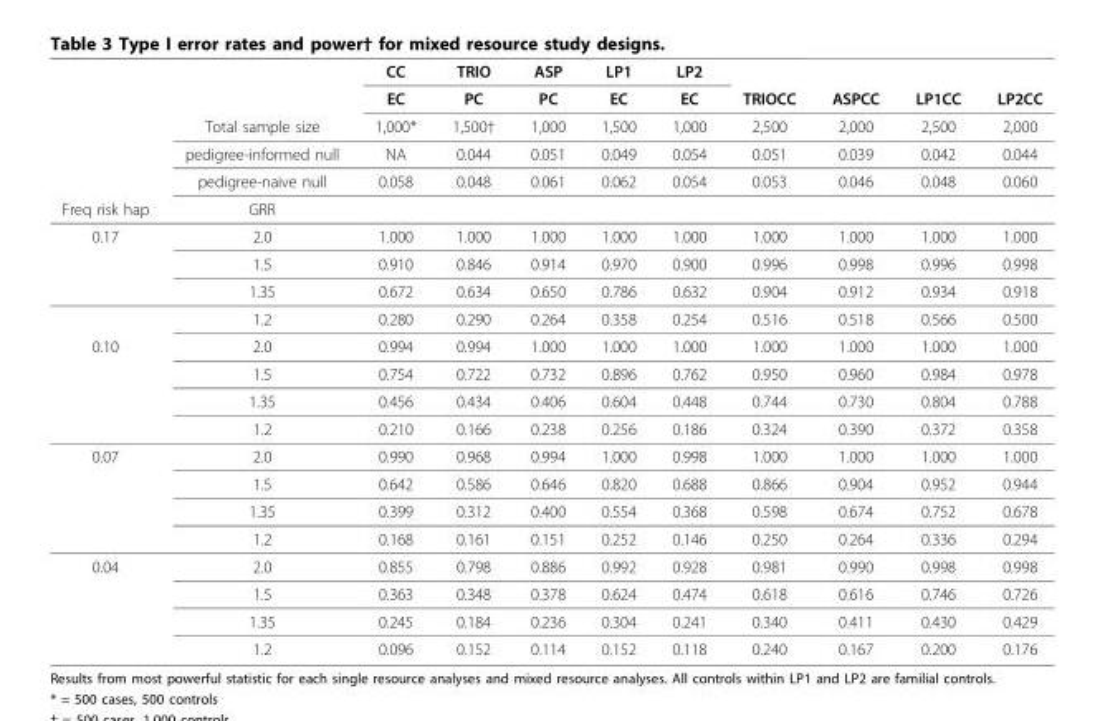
<table><thead><tr><td rowspan="6">Freq risk hap</td><td rowspan="6">Total sample size pedigree-informed null pedigree-naive null GRR</td><td rowspan="6">CC EC 1,000* NA 0.058</td><td rowspan="6">TRIO PC 1,500† 0.044 0.048</td><td rowspan="6">ASP PC 1,000 0.051 0.061</td><td rowspan="6">LP1 EC 1,500 0.049 0.062</td><td rowspan="6">LP2 EC 1,000 0.054 0.054</td><td rowspan="6">TRIOCC 2,500 0.051 0.053</td><td rowspan="6">ASPCC 2,000 0.039 0.046</td><td rowspan="6">LP1CC 2,500 0.042 0.048</td><td rowspan="6">LP2CC 2,000 0.044 0.060</td></tr><tr></tr><tr></tr><tr></tr><tr></tr><tr></tr></thead><tbody><tr><td rowspan="4">0.17</td><td>2.0</td><td>1.000</td><td>1.000</td><td>1.000</td><td>1.000</td><td>1.000</td><td>1.000</td><td>1.000</td><td>1.000</td><td>1.000</td></tr><tr><td>1.5</td><td>0.910</td><td>0.846</td><td>0.914</td><td>0.970</td><td>0.900</td><td>0.996</td><td>0.998</td><td>0.996</td><td>0.998</td></tr><tr><td>1.35</td><td>0.672</td><td>0.634</td><td>0.650</td><td>0.786</td><td>0.632</td><td>0.904</td><td>0.912</td><td>0.934</td><td>0.918</td></tr><tr><td>1.2</td><td>0.280</td><td>0.290</td><td>0.264</td><td>0.358</td><td>0.254</td><td>0.516</td><td>0.518</td><td>0.566</td><td>0.500</td></tr><tr><td rowspan="4">0.10</td><td>2.0</td><td>0.994</td><td>0.994</td><td>1.000</td><td>1.000</td><td>1.000</td><td>1.000</td><td>1.000</td><td>1.000</td><td>1.000</td></tr><tr><td>1.5</td><td>0.754</td><td>0.722</td><td>0.732</td><td>0.896</td><td>0.762</td><td>0.950</td><td>0.960</td><td>0.984</td><td>0.978</td></tr><tr><td>1.35</td><td>0.456</td><td>0.434</td><td>0.406</td><td>0.604</td><td>0.448</td><td>0.744</td><td>0.730</td><td>0.804</td><td>0.788</td></tr><tr><td>1.2</td><td>0.210</td><td>0.166</td><td>0.238</td><td>0.256</td><td>0.186</td><td>0.324</td><td>0.390</td><td>0.372</td><td>0.358</td></tr><tr><td rowspan="4">0.07</td><td>2.0</td><td>0.990</td><td>0.968</td><td>0.994</td><td>1.000</td><td>0.998</td><td>1.000</td><td>1.000</td><td>1.000</td><td>1.000</td></tr><tr><td>1.5</td><td>0.642</td><td>0.586</td><td>0.646</td><td>0.820</td><td>0.688</td><td>0.866</td><td>0.904</td><td>0.952</td><td>0.944</td></tr><tr><td>1.35</td><td>0.399</td><td>0.312</td><td>0.400</td><td>0.554</td><td>0.368</td><td>0.598</td><td>0.674</td><td>0.752</td><td>0.678</td></tr><tr><td>1.2</td><td>0.168</td><td>0.161</td><td>0.151</td><td>0.252</td><td>0.146</td><td>0.250</td><td>0.264</td><td>0.336</td><td>0.294</td></tr><tr><td rowspan="4">0.04</td><td>2.0</td><td>0.855</td><td>0.798</td><td>0.886</td><td>0.992</td><td>0.928</td><td>0.981</td><td>0.990</td><td>0.998</td><td>0.998</td></tr><tr><td>1.5</td><td>0.363</td><td>0.348</td><td>0.378</td><td>0.624</td><td>0.474</td><td>0.618</td><td>0.616</td><td>0.746</td><td>0.726</td></tr><tr><td>1.35</td><td>0.245</td><td>0.184</td><td>0.236</td><td>0.304</td><td>0.241</td><td>0.340</td><td>0.411</td><td>0.430</td><td>0.429</td></tr><tr><td>1.2</td><td>0.096</td><td>0.152</td><td>0.114</td><td>0.152</td><td>0.118</td><td>0.240</td><td>0.167</td><td>0.200</td><td>0.176</td></tr></tbody></table>